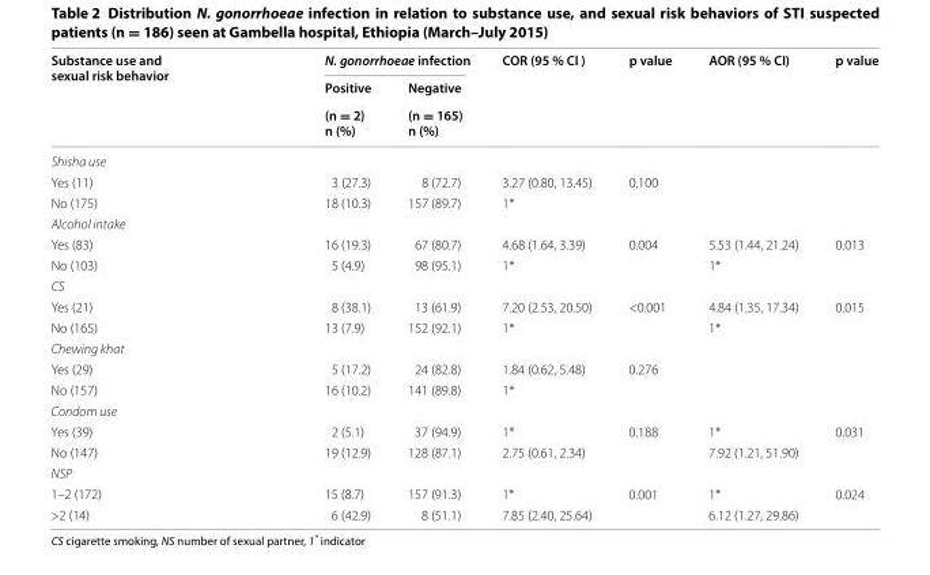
<table><thead><tr><td rowspan="3">Substance use and sexual risk behavior</td><td colspan="2">N. gonorrhoeae infection</td><td rowspan="3">COR (95 % CI )</td><td rowspan="3">p value</td><td rowspan="3">AOR (95 % CI)</td><td rowspan="3">p value</td></tr><tr><td rowspan="2">Positive (n = 2) n (%)</td><td rowspan="2">Negative (n = 165) n (%)</td></tr><tr></tr></thead><tbody><tr><td colspan="7">Shisha use</td></tr><tr><td>Yes (11)</td><td>3 (27.3)</td><td>8 (72.7)</td><td>3.27 (0.80, 13.45)</td><td rowspan="2">0.100</td><td></td><td rowspan="2"></td></tr><tr><td>No (175)</td><td>18 (10.3)</td><td>157 (89.7)</td><td>1*</td><td></td></tr><tr><td colspan="7">Alcohol intake</td></tr><tr><td>Yes (83)</td><td>16 (19.3)</td><td>67 (80.7)</td><td>4.68 (1.64, 3.39)</td><td rowspan="2">0.004</td><td>5.53 (1.44, 21.24)</td><td rowspan="2">0.013</td></tr><tr><td>No (103)</td><td>5 (4.9)</td><td>98 (95.1)</td><td>1*</td><td>1*</td></tr><tr><td colspan="7">CS</td></tr><tr><td>Yes (21)</td><td>8 (38.1)</td><td>13 (61.9)</td><td>7.20 (2.53, 20.50)</td><td rowspan="2">&lt;0.001</td><td>4.84 (1.35, 17.34)</td><td>0.015</td></tr><tr><td>No (165)</td><td>13 (7.9)</td><td>152 (92.1)</td><td>1*</td><td>1*</td><td></td></tr><tr><td colspan="7">Chewing khat</td></tr><tr><td>Yes (29)</td><td>5 (17.2)</td><td>24 (82.8)</td><td>1.84 (0.62, 5.48)</td><td rowspan="2">0.276</td><td></td><td></td></tr><tr><td>No (157)</td><td>16 (10.2)</td><td>141 (89.8)</td><td>1*</td><td></td><td></td></tr><tr><td colspan="7">Condom use</td></tr><tr><td>Yes (39)</td><td>2 (5.1)</td><td>37 (94.9)</td><td>1*</td><td rowspan="2">0.188</td><td>1*</td><td rowspan="2">0.031</td></tr><tr><td>No (147)</td><td>19 (12.9)</td><td>128 (87.1)</td><td>2.75 (0.61, 2.34)</td><td>7.92 (1.21, 51.90)</td></tr><tr><td colspan="7">NSP</td></tr><tr><td>1–2 (172)</td><td>15 (8.7)</td><td>157 (91.3)</td><td>1*</td><td rowspan="2">0.001</td><td>1*</td><td rowspan="2">0.024</td></tr><tr><td>&gt;2 (14)</td><td>6 (42.9)</td><td>8 (51.1)</td><td>7.85 (2.40, 25.64)</td><td>6.12 (1.27, 29.86)</td></tr></tbody></table>